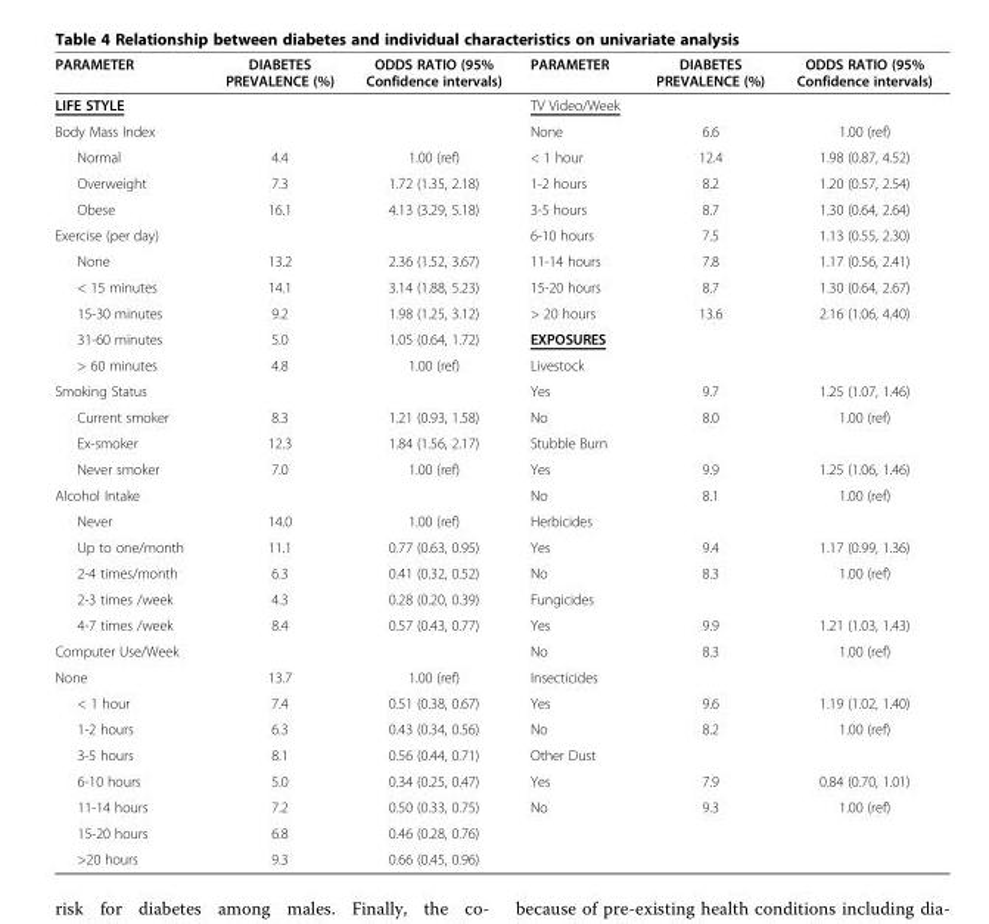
<table><thead><tr><td>PARAMETER</td><td>DIABETES PREVALENCE (%)</td><td>ODDS RATIO (95% Confidence intervals)</td><td>PARAMETER</td><td>DIABETES PREVALENCE (%)</td><td>ODDS RATIO (95% Confidence intervals)</td></tr></thead><tbody><tr><td>LIFE STYLE</td><td></td><td></td><td>TV Video/Week</td><td></td><td></td></tr><tr><td>Body Mass Index</td><td></td><td></td><td>None</td><td>6.6</td><td>1.00 (ref)</td></tr><tr><td>Normal</td><td>4.4</td><td>1.00 (ref)</td><td>&lt; 1 hour</td><td>12.4</td><td>1.98 (0.87, 4.52)</td></tr><tr><td>Overweight</td><td>7.3</td><td>1.72 (1.35, 2.18)</td><td>1-2 hours</td><td>8.2</td><td>1.20 (0.57, 2.54)</td></tr><tr><td>Obese</td><td>16.1</td><td>4.13 (3.29, 5.18)</td><td>3-5 hours</td><td>8.7</td><td>1.30 (0.64, 2.64)</td></tr><tr><td>Exercise (per day)</td><td></td><td></td><td>6-10 hours</td><td>7.5</td><td>1.13 (0.55, 2.30)</td></tr><tr><td>None</td><td>13.2</td><td>2.36 (1.52, 3.67)</td><td>11-14 hours</td><td>7.8</td><td>1.17 (0.56, 2.41)</td></tr><tr><td>&lt; 15 minutes</td><td>14.1</td><td>3.14 (1.88, 5.23)</td><td>15-20 hours</td><td>8.7</td><td>1.30 (0.64, 2.67)</td></tr><tr><td>15-30 minutes</td><td>9.2</td><td>1.98 (1.25, 3.12)</td><td>&gt; 20 hours</td><td>13.6</td><td>2.16 (1.06, 4.40)</td></tr><tr><td>31-60 minutes</td><td>5.0</td><td>1.05 (0.64, 1.72)</td><td>EXPOSURES</td><td></td><td></td></tr><tr><td>&gt; 60 minutes</td><td>4.8</td><td>1.00 (ref)</td><td>Livestock</td><td></td><td></td></tr><tr><td>Smoking Status</td><td></td><td></td><td>Yes</td><td>9.7</td><td>1.25 (1.07, 1.46)</td></tr><tr><td>Current smoker</td><td>8.3</td><td>1.21 (0.93, 1.58)</td><td>No</td><td>8.0</td><td>1.00 (ref)</td></tr><tr><td>Ex-smoker</td><td>12.3</td><td>1.84 (1.56, 2.17)</td><td>Stubble Burn</td><td></td><td></td></tr><tr><td>Never smoker</td><td>7.0</td><td>1.00 (ref)</td><td>Yes</td><td>9.9</td><td>1.25 (1.06, 1.46)</td></tr><tr><td>Alcohol Intake</td><td></td><td></td><td>No</td><td>8.1</td><td>1.00 (ref)</td></tr><tr><td>Never</td><td>14.0</td><td>1.00 (ref)</td><td>Herbicides</td><td></td><td></td></tr><tr><td>Up to one/month</td><td>11.1</td><td>0.77 (0.63, 0.95)</td><td>Yes</td><td>9.4</td><td>1.17 (0.99, 1.36)</td></tr><tr><td>2-4 times/month</td><td>6.3</td><td>0.41 (0.32, 0.52)</td><td>No</td><td>8.3</td><td>1.00 (ref)</td></tr><tr><td>2-3 times /week</td><td>4.3</td><td>0.28 (0.20, 0.39)</td><td>Fungicides</td><td></td><td></td></tr><tr><td>4-7 times /week</td><td>8.4</td><td>0.57 (0.43, 0.77)</td><td>Yes</td><td>9.9</td><td>1.21 (1.03, 1.43)</td></tr><tr><td>Computer Use/Week</td><td></td><td></td><td>No</td><td>8.3</td><td>1.00 (ref)</td></tr><tr><td>None</td><td>13.7</td><td>1.00 (ref)</td><td>Insecticides</td><td></td><td></td></tr><tr><td>&lt; 1 hour</td><td>7.4</td><td>0.51 (0.38, 0.67)</td><td>Yes</td><td>9.6</td><td>1.19 (1.02, 1.40)</td></tr><tr><td>1-2 hours</td><td>6.3</td><td>0.43 (0.34, 0.56)</td><td>No</td><td>8.2</td><td>1.00 (ref)</td></tr><tr><td>3-5 hours</td><td>8.1</td><td>0.56 (0.44, 0.71)</td><td>Other Dust</td><td></td><td></td></tr><tr><td>6-10 hours</td><td>5.0</td><td>0.34 (0.25, 0.47)</td><td>Yes</td><td>7.9</td><td>0.84 (0.70, 1.01)</td></tr><tr><td>11-14 hours</td><td>7.2</td><td>0.50 (0.33, 0.75)</td><td>No</td><td>9.3</td><td>1.00 (ref)</td></tr><tr><td>15-20 hours</td><td>6.8</td><td>0.46 (0.28, 0.76)</td><td></td><td></td><td></td></tr><tr><td>&gt;20 hours</td><td>9.3</td><td>0.66 (0.45, 0.96)</td><td></td><td></td><td></td></tr></tbody></table>